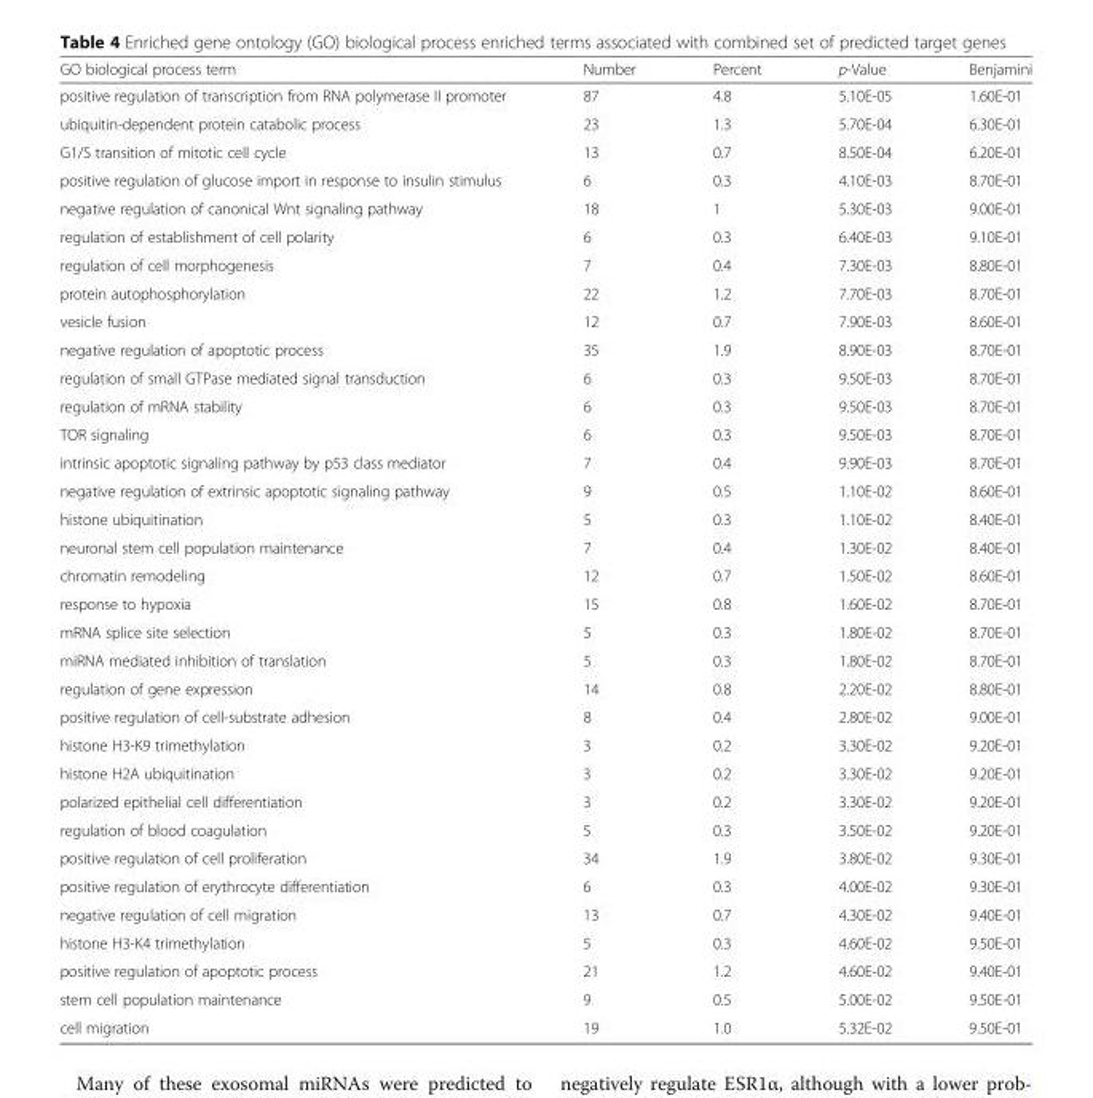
<table><thead><tr><td>GO biological process term</td><td>Number</td><td>Percent</td><td>p-Value</td><td>Benjamini</td></tr></thead><tbody><tr><td>positive regulation of transcription from RNA polymerase II promoter</td><td>87</td><td>4.8</td><td>5.10E-05</td><td>1.60E-01</td></tr><tr><td>ubiquitin-dependent protein catabolic process</td><td>23</td><td>1.3</td><td>5.70E-04</td><td>6.30E-01</td></tr><tr><td>G1/S transition of mitotic cell cycle</td><td>13</td><td>0.7</td><td>8.50E-04</td><td>6.20E-01</td></tr><tr><td>positive regulation of glucose import in response to insulin stimulus</td><td>6</td><td>0.3</td><td>4.10E-03</td><td>8.70E-01</td></tr><tr><td>negative regulation of canonical Wnt signaling pathway</td><td>18</td><td>1</td><td>5.30E-03</td><td>9.00E-01</td></tr><tr><td>regulation of establishment of cell polarity</td><td>6</td><td>0.3</td><td>6.40E-03</td><td>9.10E-01</td></tr><tr><td>regulation of cell morphogenesis</td><td>7</td><td>0.4</td><td>7.30E-03</td><td>8.80E-01</td></tr><tr><td>protein autophosphorylation</td><td>22</td><td>1.2</td><td>7.70E-03</td><td>8.70E-01</td></tr><tr><td>vesicle fusion</td><td>12</td><td>0.7</td><td>7.90E-03</td><td>8.60E-01</td></tr><tr><td>negative regulation of apoptotic process</td><td>35</td><td>1.9</td><td>8.90E-03</td><td>8.70E-01</td></tr><tr><td>regulation of small GTPase mediated signal transduction</td><td>6</td><td>0.3</td><td>9.50E-03</td><td>8.70E-01</td></tr><tr><td>regulation of mRNA stability</td><td>6</td><td>0.3</td><td>9.50E-03</td><td>8.70E-01</td></tr><tr><td>TOR signaling</td><td>6</td><td>0.3</td><td>9.50E-03</td><td>8.70E-01</td></tr><tr><td>intrinsic apoptotic signaling pathway by p53 class mediator</td><td>7</td><td>0.4</td><td>9.90E-03</td><td>8.70E-01</td></tr><tr><td>negative regulation of extrinsic apoptotic signaling pathway</td><td>9</td><td>0.5</td><td>1.10E-02</td><td>8.60E-01</td></tr><tr><td>histone ubiquitination</td><td>5</td><td>0.3</td><td>1.10E-02</td><td>8.40E-01</td></tr><tr><td>neuronal stem cell population maintenance</td><td>7</td><td>0.4</td><td>1.30E-02</td><td>8.40E-01</td></tr><tr><td>chromatin remodeling</td><td>12</td><td>0.7</td><td>1.50E-02</td><td>8.60E-01</td></tr><tr><td>response to hypoxia</td><td>15</td><td>0.8</td><td>1.60E-02</td><td>8.70E-01</td></tr><tr><td>mRNA splice site selection</td><td>5</td><td>0.3</td><td>1.80E-02</td><td>8.70E-01</td></tr><tr><td>miRNA mediated inhibition of translation</td><td>5</td><td>0.3</td><td>1.80E-02</td><td>8.70E-01</td></tr><tr><td>regulation of gene expression</td><td>14</td><td>0.8</td><td>2.20E-02</td><td>8.80E-01</td></tr><tr><td>positive regulation of cell-substrate adhesion</td><td>8</td><td>0.4</td><td>2.80E-02</td><td>9.00E-01</td></tr><tr><td>histone H3-K9 trimethylation</td><td>3</td><td>0.2</td><td>3.30E-02</td><td>9.20E-01</td></tr><tr><td>histone H2A ubiquitination</td><td>3</td><td>0.2</td><td>3.30E-02</td><td>9.20E-01</td></tr><tr><td>polarized epithelial cell differentiation</td><td>3</td><td>0.2</td><td>3.30E-02</td><td>9.20E-01</td></tr><tr><td>regulation of blood coagulation</td><td>5</td><td>0.3</td><td>3.50E-02</td><td>9.20E-01</td></tr><tr><td>positive regulation of cell proliferation</td><td>34</td><td>1.9</td><td>3.80E-02</td><td>9.30E-01</td></tr><tr><td>positive regulation of erythrocyte differentiation</td><td>6</td><td>0.3</td><td>4.00E-02</td><td>9.30E-01</td></tr><tr><td>negative regulation of cell migration</td><td>13</td><td>0.7</td><td>4.30E-02</td><td>9.40E-01</td></tr><tr><td>histone H3-K4 trimethylation</td><td>5</td><td>0.3</td><td>4.60E-02</td><td>9.50E-01</td></tr><tr><td>positive regulation of apoptotic process</td><td>21</td><td>1.2</td><td>4.60E-02</td><td>9.40E-01</td></tr><tr><td>stem cell population maintenance</td><td>9</td><td>0.5</td><td>5.00E-02</td><td>9.50E-01</td></tr><tr><td>cell migration</td><td>19</td><td>1.0</td><td>5.32E-02</td><td>9.50E-01</td></tr></tbody></table>